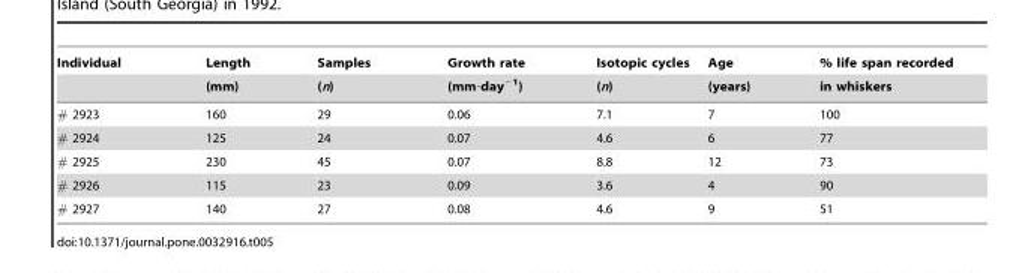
<table><thead><tr><td rowspan="2">Individual</td><td rowspan="2">Length (mm)</td><td rowspan="2">Samples (n)</td><td rowspan="2">Growth rate (mm·day<sup>−1</sup>)</td><td rowspan="2">Isotopic cycles (n)</td><td rowspan="2">Age (years)</td><td rowspan="2">% life span recorded in whiskers</td></tr><tr></tr></thead><tbody><tr><td># 2923</td><td>160</td><td>29</td><td>0.06</td><td>7.1</td><td>7</td><td>100</td></tr><tr><td># 2924</td><td>125</td><td>24</td><td>0.07</td><td>4.6</td><td>6</td><td>77</td></tr><tr><td># 2925</td><td>230</td><td>45</td><td>0.07</td><td>8.8</td><td>12</td><td>73</td></tr><tr><td># 2926</td><td>115</td><td>23</td><td>0.09</td><td>3.6</td><td>4</td><td>90</td></tr><tr><td># 2927</td><td>140</td><td>27</td><td>0.08</td><td>4.6</td><td>9</td><td>51</td></tr></tbody></table>